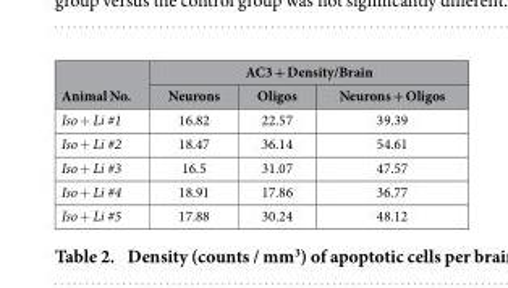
<table><thead><tr><td rowspan="2">Animal No.</td><td colspan="3">AC3 + Density/Brain</td></tr><tr><td>Neurons</td><td>Oligos</td><td>Neurons + Oligos</td></tr></thead><tbody><tr><td>Iso + Li #1</td><td>16.82</td><td>22.57</td><td>39.39</td></tr><tr><td>Iso + Li #2</td><td>18.47</td><td>36.14</td><td>54.61</td></tr><tr><td>Iso + Li #3</td><td>16.5</td><td>31.07</td><td>47.57</td></tr><tr><td>Iso + Li #4</td><td>18.91</td><td>17.86</td><td>36.77</td></tr><tr><td>Iso + Li #5</td><td>17.88</td><td>30.24</td><td>48.12</td></tr></tbody></table>